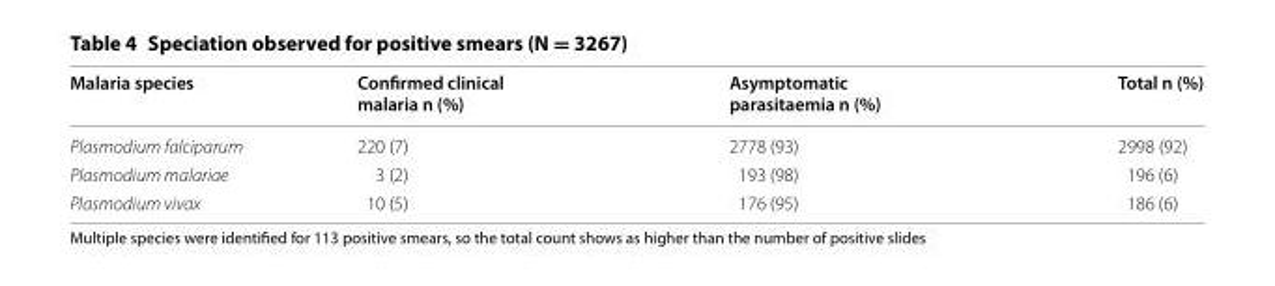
<table><thead><tr><td>Malaria species</td><td>Confirmed clinical malaria n (%)</td><td>Asymptomatic parasitaemia n (%)</td><td>Total n (%)</td></tr></thead><tbody><tr><td>Plasmodium falciparum</td><td>220 (7)</td><td>2778 (93)</td><td>2998 (92)</td></tr><tr><td>Plasmodium malariae</td><td>3 (2)</td><td>193 (98)</td><td>196 (6)</td></tr><tr><td>Plasmodium vivax</td><td>10 (5)</td><td>176 (95)</td><td>186 (6)</td></tr></tbody></table>